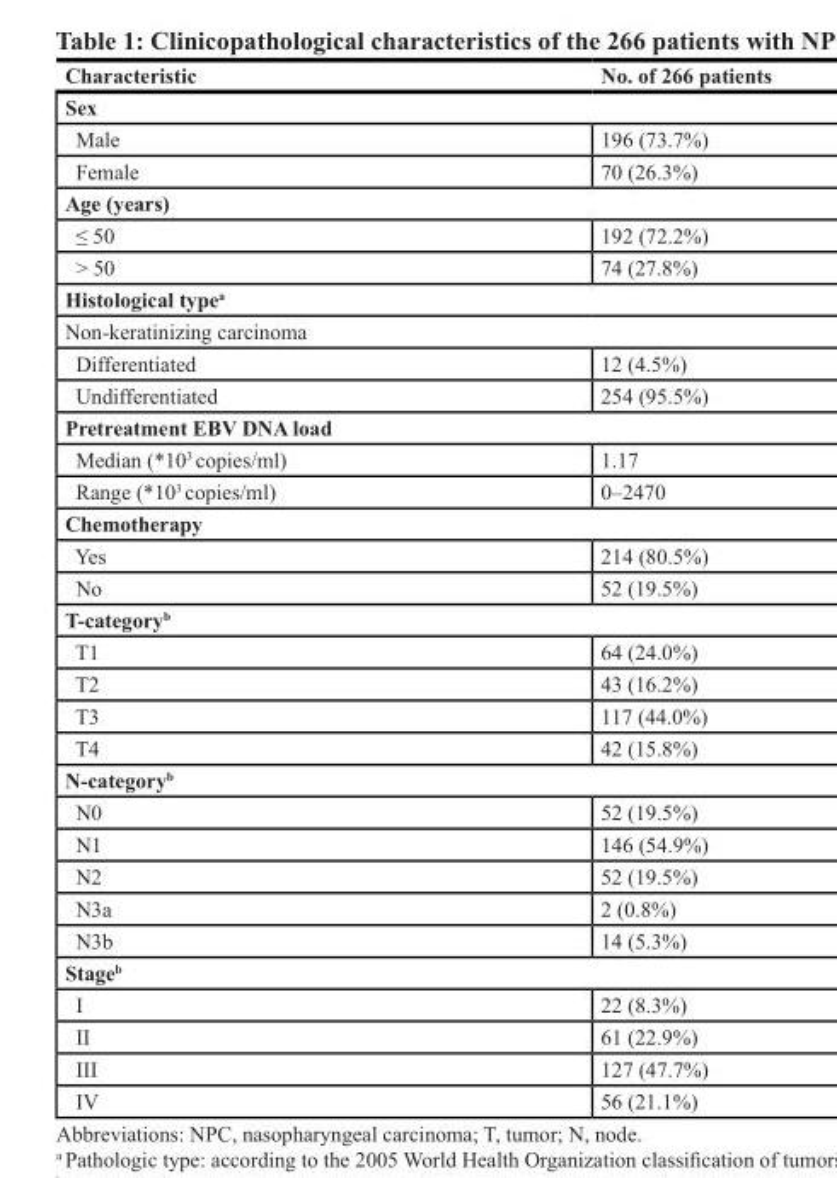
<table><thead><tr><td>Characteristic</td><td>No. of 266 patients</td></tr></thead><tbody><tr><td colspan="2">Sex</td></tr><tr><td>Male</td><td>196 (73.7%)</td></tr><tr><td>Female</td><td>70 (26.3%)</td></tr><tr><td colspan="2">Age (years)</td></tr><tr><td>≤ 50</td><td>192 (72.2%)</td></tr><tr><td>&gt; 50</td><td>74 (27.8%)</td></tr><tr><td colspan="2">Histological type<sup>a</sup></td></tr><tr><td colspan="2">Non-keratinizing carcinoma</td></tr><tr><td>Differentiated</td><td>12 (4.5%)</td></tr><tr><td>Undifferentiated</td><td>254 (95.5%)</td></tr><tr><td colspan="2">Pretreatment EBV DNA load</td></tr><tr><td>Median (*10<sup>3</sup> copies/ml)</td><td>1.17</td></tr><tr><td>Range (*10<sup>3</sup> copies/ml)</td><td>0–2470</td></tr><tr><td colspan="2">Chemotherapy</td></tr><tr><td>Yes</td><td>214 (80.5%)</td></tr><tr><td>No</td><td>52 (19.5%)</td></tr><tr><td colspan="2">T-category<sup>b</sup></td></tr><tr><td>T1</td><td>64 (24.0%)</td></tr><tr><td>T2</td><td>43 (16.2%)</td></tr><tr><td>T3</td><td>117 (44.0%)</td></tr><tr><td>T4</td><td>42 (15.8%)</td></tr><tr><td colspan="2">N-category<sup>b</sup></td></tr><tr><td>N0</td><td>52 (19.5%)</td></tr><tr><td>N1</td><td>146 (54.9%)</td></tr><tr><td>N2</td><td>52 (19.5%)</td></tr><tr><td>N3a</td><td>2 (0.8%)</td></tr><tr><td>N3b</td><td>14 (5.3%)</td></tr><tr><td colspan="2">Stage<sup>b</sup></td></tr><tr><td>I</td><td>22 (8.3%)</td></tr><tr><td>II</td><td>61 (22.9%)</td></tr><tr><td>III</td><td>127 (47.7%)</td></tr><tr><td>IV</td><td>56 (21.1%)</td></tr></tbody></table>